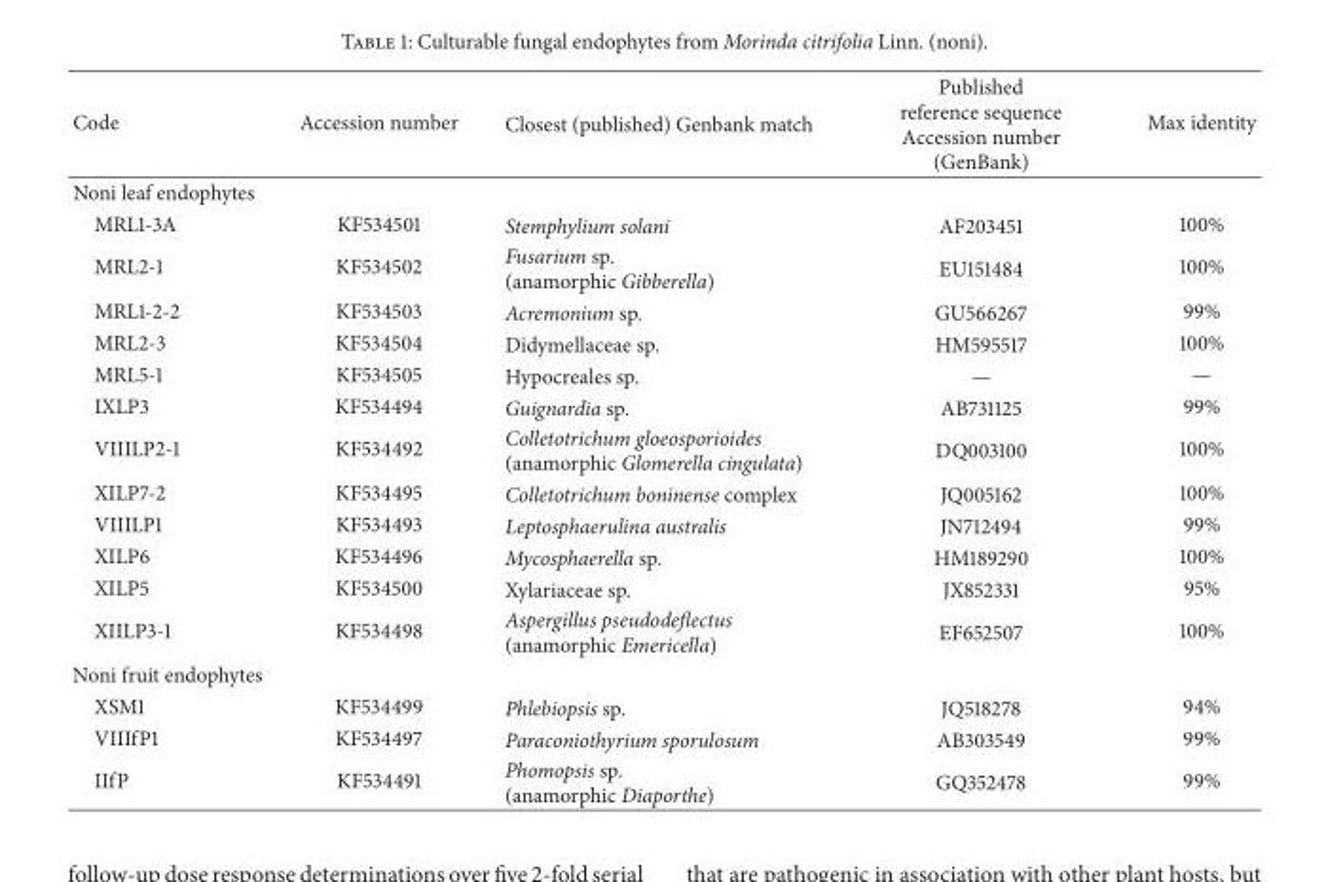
<table><thead><tr><td>Code</td><td>Accession number</td><td>Closest (published) Genbank match</td><td>Published reference sequence Accession number (GenBank)</td><td>Max identity</td></tr></thead><tbody><tr><td colspan="5">Noni leaf endophytes</td></tr><tr><td>MRL1-3A</td><td>KF534501</td><td>Stemphylium solani</td><td>AF203451</td><td>100%</td></tr><tr><td>MRL2-1</td><td>KF534502</td><td>Fusarium sp. (anamorphic Gibberella)</td><td>EU151484</td><td>100%</td></tr><tr><td>MRL1-2-2</td><td>KF534503</td><td>Acremonium sp.</td><td>GU566267</td><td>99%</td></tr><tr><td>MRL2-3</td><td>KF534504</td><td>Didymellaceae sp.</td><td>HM595517</td><td>100%</td></tr><tr><td>MRL5-1</td><td>KF534505</td><td>Hypocreales sp.</td><td>—</td><td>—</td></tr><tr><td>IXLP3</td><td>KF534494</td><td>Guignardia sp.</td><td>AB731125</td><td>99%</td></tr><tr><td>VIIILP2-1</td><td>KF534492</td><td>Colletotrichum gloeosporioides (anamorphic Glomerella cingulata)</td><td>DQ003100</td><td>100%</td></tr><tr><td>XILP7-2</td><td>KF534495</td><td>Colletotrichum boninense complex</td><td>JQ005162</td><td>100%</td></tr><tr><td>VIIILP1</td><td>KF534493</td><td>Leptosphaerulina australis</td><td>JN712494</td><td>99%</td></tr><tr><td>XILP6</td><td>KF534496</td><td>Mycosphaerella sp.</td><td>HM189290</td><td>100%</td></tr><tr><td>XILP5</td><td>KF534500</td><td>Xylariaceae sp.</td><td>JX852331</td><td>95%</td></tr><tr><td>XIILP3-1</td><td>KF534498</td><td>Aspergillus pseudodeflectus (anamorphic Emericella)</td><td>EF652507</td><td>100%</td></tr><tr><td colspan="5">Noni fruit endophytes</td></tr><tr><td>XSM1</td><td>KF534499</td><td>Phlebiopsis sp.</td><td>JQ518278</td><td>94%</td></tr><tr><td>VIIIfP1</td><td>KF534497</td><td>Paraconiothyrium sporulosum</td><td>AB303549</td><td>99%</td></tr><tr><td>IIfP</td><td>KF534491</td><td>Phomopsis sp. (anamorphic Diaporthe)</td><td>GQ352478</td><td>99%</td></tr></tbody></table>